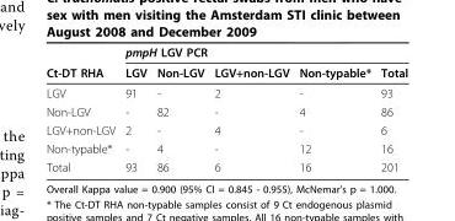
<table><thead><tr><td rowspan="2">Ct-DT RHA</td><td colspan="5">pmpH LGV PCR</td></tr><tr><td>LGV</td><td>Non-LGV</td><td>LGV+non-LGV</td><td>Non-typable*</td><td>Total</td></tr></thead><tbody><tr><td>LGV</td><td>91</td><td>-</td><td>2</td><td>-</td><td>93</td></tr><tr><td>Non-LGV</td><td>-</td><td>82</td><td>-</td><td>4</td><td>86</td></tr><tr><td>LGV+non-LGV</td><td>2</td><td>-</td><td>4</td><td>-</td><td>6</td></tr><tr><td>Non-typable*</td><td>-</td><td>4</td><td>-</td><td>12</td><td>16</td></tr><tr><td>Total</td><td>93</td><td>86</td><td>6</td><td>16</td><td>201</td></tr></tbody></table>